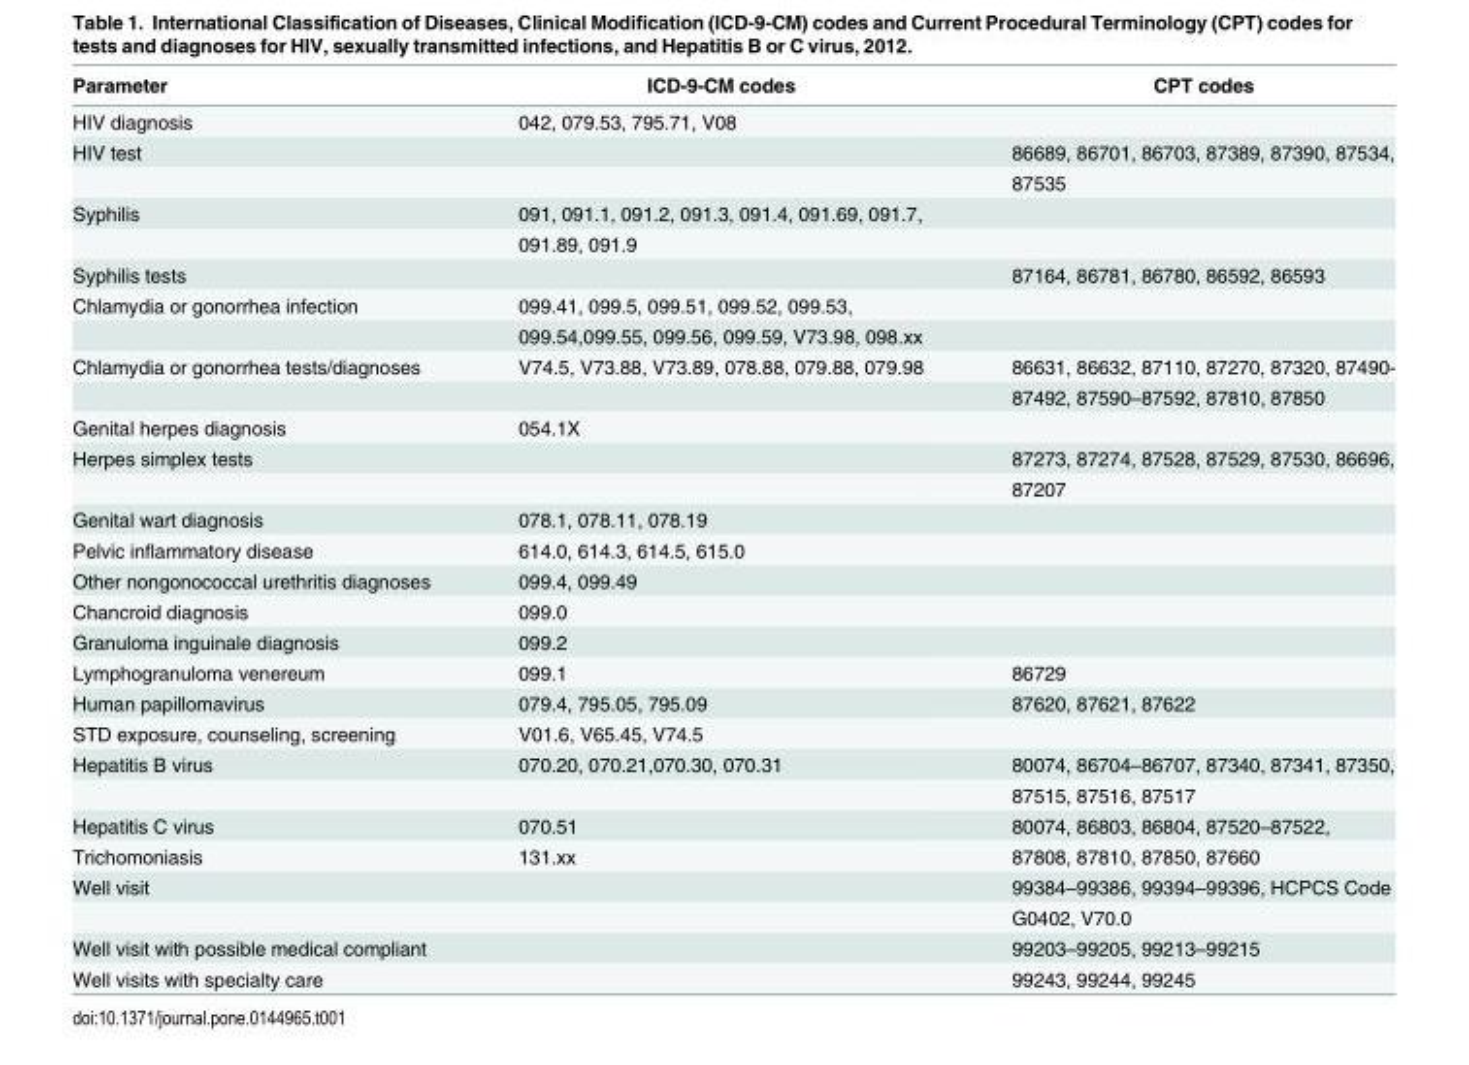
<table><thead><tr><td>Parameter</td><td>ICD-9-CM codes</td><td>CPT codes</td></tr></thead><tbody><tr><td>HIV diagnosis</td><td>042, 079.53, 795.71, V08</td><td></td></tr><tr><td rowspan="2">HIV test</td><td></td><td>86689, 86701, 86703, 87389, 87390, 87534,</td></tr><tr><td></td><td>87535</td></tr><tr><td rowspan="2">Syphilis</td><td>091, 091.1, 091.2, 091.3, 091.4, 091.69, 091.7,</td><td></td></tr><tr><td>091.89, 091.9</td><td></td></tr><tr><td>Syphilis tests</td><td></td><td>87164, 86781, 86780, 86592, 86593</td></tr><tr><td rowspan="2">Chlamydia or gonorrhea infection</td><td>099.41, 099.5, 099.51, 099.52, 099.53,</td><td></td></tr><tr><td>099.54,099.55, 099.56, 099.59, V73.98, 098.xx</td><td></td></tr><tr><td rowspan="2">Chlamydia or gonorrhea tests/diagnoses</td><td>V74.5, V73.88, V73.89, 078.88, 079.88, 079.98</td><td>86631, 86632, 87110, 87270, 87320, 87490-</td></tr><tr><td></td><td>87492, 87590–87592, 87810, 87850</td></tr><tr><td>Genital herpes diagnosis</td><td>054.1X</td><td></td></tr><tr><td rowspan="2">Herpes simplex tests</td><td></td><td>87273, 87274, 87528, 87529, 87530, 86696,</td></tr><tr><td></td><td>87207</td></tr><tr><td>Genital wart diagnosis</td><td>078.1, 078.11, 078.19</td><td></td></tr><tr><td>Pelvic inflammatory disease</td><td>614.0, 614.3, 614.5, 615.0</td><td></td></tr><tr><td>Other nongonococcal urethritis diagnoses</td><td>099.4, 099.49</td><td></td></tr><tr><td>Chancroid diagnosis</td><td>099.0</td><td></td></tr><tr><td>Granuloma inguinale diagnosis</td><td>099.2</td><td></td></tr><tr><td>Lymphogranuloma venereum</td><td>099.1</td><td>86729</td></tr><tr><td>Human papillomavirus</td><td>079.4, 795.05, 795.09</td><td>87620, 87621, 87622</td></tr><tr><td>STD exposure, counseling, screening</td><td>V01.6, V65.45, V74.5</td><td></td></tr><tr><td rowspan="2">Hepatitis B virus</td><td>070.20, 070.21,070.30, 070.31</td><td>80074, 86704–86707, 87340, 87341, 87350,</td></tr><tr><td></td><td>87515, 87516, 87517</td></tr><tr><td>Hepatitis C virus</td><td>070.51</td><td>80074, 86803, 86804, 87520–87522,</td></tr><tr><td>Trichomoniasis</td><td>131.xx</td><td>87808, 87810, 87850, 87660</td></tr><tr><td rowspan="2">Well visit</td><td></td><td>99384–99386, 99394–99396, HCPCS Code</td></tr><tr><td></td><td>G0402, V70.0</td></tr><tr><td>Well visit with possible medical compliant</td><td></td><td>99203–99205, 99213–99215</td></tr><tr><td>Well visits with specialty care</td><td></td><td>99243, 99244, 99245</td></tr></tbody></table>